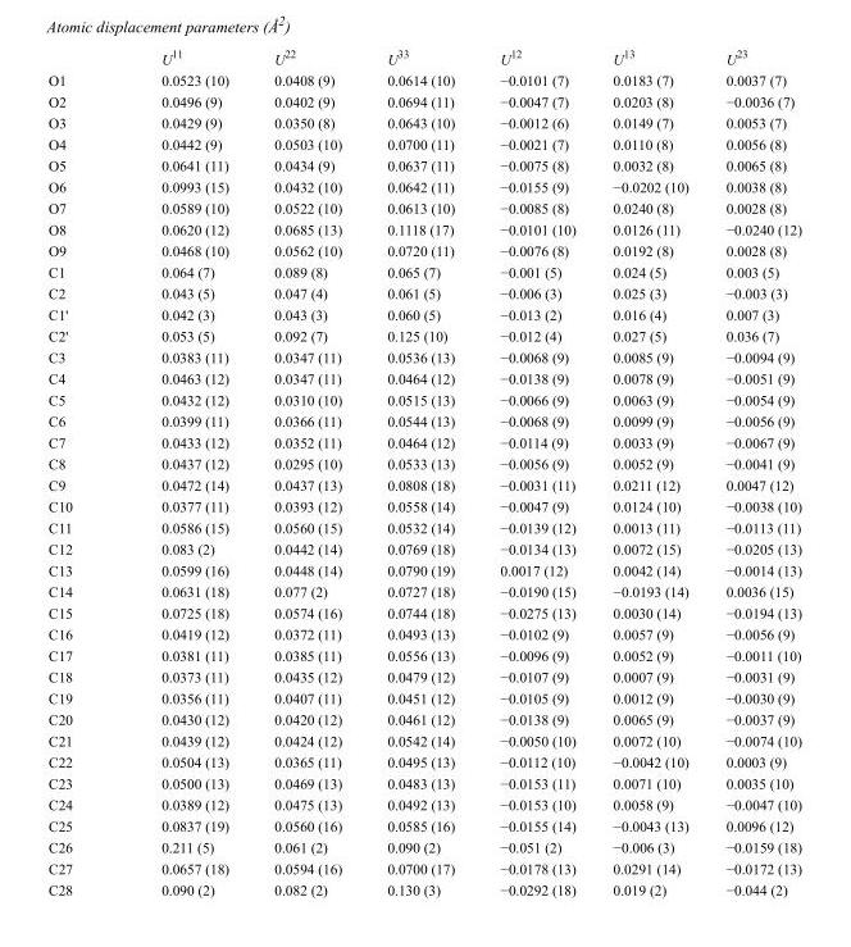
<table><thead><tr><td></td><td>U<sup>11</sup></td><td>U<sup>22</sup></td><td>U<sup>33</sup></td><td>U<sup>12</sup></td><td>U<sup>13</sup></td><td>U<sup>23</sup></td></tr></thead><tbody><tr><td>O1</td><td>0.0523 (10)</td><td>0.0408 (9)</td><td>0.0614 (10)</td><td>−0.0101 (7)</td><td>0.0183 (7)</td><td>0.0037 (7)</td></tr><tr><td>O2</td><td>0.0496 (9)</td><td>0.0402 (9)</td><td>0.0694 (11)</td><td>−0.0047 (7)</td><td>0.0203 (8)</td><td>−0.0036 (7)</td></tr><tr><td>O3</td><td>0.0429 (9)</td><td>0.0350 (8)</td><td>0.0643 (10)</td><td>−0.0012 (6)</td><td>0.0149 (7)</td><td>0.0053 (7)</td></tr><tr><td>O4</td><td>0.0442 (9)</td><td>0.0503 (10)</td><td>0.0700 (11)</td><td>−0.0021 (7)</td><td>0.0110 (8)</td><td>0.0056 (8)</td></tr><tr><td>O5</td><td>0.0641 (11)</td><td>0.0434 (9)</td><td>0.0637 (11)</td><td>−0.0075 (8)</td><td>0.0032 (8)</td><td>0.0065 (8)</td></tr><tr><td>O6</td><td>0.0993 (15)</td><td>0.0432 (10)</td><td>0.0642 (11)</td><td>−0.0155 (9)</td><td>−0.0202 (10)</td><td>0.0038 (8)</td></tr><tr><td>O7</td><td>0.0589 (10)</td><td>0.0522 (10)</td><td>0.0613 (10)</td><td>−0.0085 (8)</td><td>0.0240 (8)</td><td>0.0028 (8)</td></tr><tr><td>O8</td><td>0.0620 (12)</td><td>0.0685 (13)</td><td>0.1118 (17)</td><td>−0.0101 (10)</td><td>0.0126 (11)</td><td>−0.0240 (12)</td></tr><tr><td>O9</td><td>0.0468 (10)</td><td>0.0562 (10)</td><td>0.0720 (11)</td><td>−0.0076 (8)</td><td>0.0192 (8)</td><td>0.0028 (8)</td></tr><tr><td>C1</td><td>0.064 (7)</td><td>0.089 (8)</td><td>0.065 (7)</td><td>−0.001 (5)</td><td>0.024 (5)</td><td>0.003 (5)</td></tr><tr><td>C2</td><td>0.043 (5)</td><td>0.047 (4)</td><td>0.061 (5)</td><td>−0.006 (3)</td><td>0.025 (3)</td><td>−0.003 (3)</td></tr><tr><td>C1&#x27;</td><td>0.042 (3)</td><td>0.043 (3)</td><td>0.060 (5)</td><td>−0.013 (2)</td><td>0.016 (4)</td><td>0.007 (3)</td></tr><tr><td>C2&#x27;</td><td>0.053 (5)</td><td>0.092 (7)</td><td>0.125 (10)</td><td>−0.012 (4)</td><td>0.027 (5)</td><td>0.036 (7)</td></tr><tr><td>C3</td><td>0.0383 (11)</td><td>0.0347 (11)</td><td>0.0536 (13)</td><td>−0.0068 (9)</td><td>0.0085 (9)</td><td>−0.0094 (9)</td></tr><tr><td>C4</td><td>0.0463 (12)</td><td>0.0347 (11)</td><td>0.0464 (12)</td><td>−0.0138 (9)</td><td>0.0078 (9)</td><td>−0.0051 (9)</td></tr><tr><td>C5</td><td>0.0432 (12)</td><td>0.0310 (10)</td><td>0.0515 (13)</td><td>−0.0066 (9)</td><td>0.0063 (9)</td><td>−0.0054 (9)</td></tr><tr><td>C6</td><td>0.0399 (11)</td><td>0.0366 (11)</td><td>0.0544 (13)</td><td>−0.0068 (9)</td><td>0.0099 (9)</td><td>−0.0056 (9)</td></tr><tr><td>C7</td><td>0.0433 (12)</td><td>0.0352 (11)</td><td>0.0464 (12)</td><td>−0.0114 (9)</td><td>0.0033 (9)</td><td>−0.0067 (9)</td></tr><tr><td>C8</td><td>0.0437 (12)</td><td>0.0295 (10)</td><td>0.0533 (13)</td><td>−0.0056 (9)</td><td>0.0052 (9)</td><td>−0.0041 (9)</td></tr><tr><td>C9</td><td>0.0472 (14)</td><td>0.0437 (13)</td><td>0.0808 (18)</td><td>−0.0031 (11)</td><td>0.0211 (12)</td><td>0.0047 (12)</td></tr><tr><td>C10</td><td>0.0377 (11)</td><td>0.0393 (12)</td><td>0.0558 (14)</td><td>−0.0047 (9)</td><td>0.0124 (10)</td><td>−0.0038 (10)</td></tr><tr><td>C11</td><td>0.0586 (15)</td><td>0.0560 (15)</td><td>0.0532 (14)</td><td>−0.0139 (12)</td><td>0.0013 (11)</td><td>−0.0113 (11)</td></tr><tr><td>C12</td><td>0.083 (2)</td><td>0.0442 (14)</td><td>0.0769 (18)</td><td>−0.0134 (13)</td><td>0.0072 (15)</td><td>−0.0205 (13)</td></tr><tr><td>C13</td><td>0.0599 (16)</td><td>0.0448 (14)</td><td>0.0790 (19)</td><td>0.0017 (12)</td><td>0.0042 (14)</td><td>−0.0014 (13)</td></tr><tr><td>C14</td><td>0.0631 (18)</td><td>0.077 (2)</td><td>0.0727 (18)</td><td>−0.0190 (15)</td><td>−0.0193 (14)</td><td>0.0036 (15)</td></tr><tr><td>C15</td><td>0.0725 (18)</td><td>0.0574 (16)</td><td>0.0744 (18)</td><td>−0.0275 (13)</td><td>0.0030 (14)</td><td>−0.0194 (13)</td></tr><tr><td>C16</td><td>0.0419 (12)</td><td>0.0372 (11)</td><td>0.0493 (13)</td><td>−0.0102 (9)</td><td>0.0057 (9)</td><td>−0.0056 (9)</td></tr><tr><td>C17</td><td>0.0381 (11)</td><td>0.0385 (11)</td><td>0.0556 (13)</td><td>−0.0096 (9)</td><td>0.0052 (9)</td><td>−0.0011 (10)</td></tr><tr><td>C18</td><td>0.0373 (11)</td><td>0.0435 (12)</td><td>0.0479 (12)</td><td>−0.0107 (9)</td><td>0.0007 (9)</td><td>−0.0031 (9)</td></tr><tr><td>C19</td><td>0.0356 (11)</td><td>0.0407 (11)</td><td>0.0451 (12)</td><td>−0.0105 (9)</td><td>0.0012 (9)</td><td>−0.0030 (9)</td></tr><tr><td>C20</td><td>0.0430 (12)</td><td>0.0420 (12)</td><td>0.0461 (12)</td><td>−0.0138 (9)</td><td>0.0065 (9)</td><td>−0.0037 (9)</td></tr><tr><td>C21</td><td>0.0439 (12)</td><td>0.0424 (12)</td><td>0.0542 (14)</td><td>−0.0050 (10)</td><td>0.0072 (10)</td><td>−0.0074 (10)</td></tr><tr><td>C22</td><td>0.0504 (13)</td><td>0.0365 (11)</td><td>0.0495 (13)</td><td>−0.0112 (10)</td><td>−0.0042 (10)</td><td>0.0003 (9)</td></tr><tr><td>C23</td><td>0.0500 (13)</td><td>0.0469 (13)</td><td>0.0483 (13)</td><td>−0.0153 (11)</td><td>0.0071 (10)</td><td>0.0035 (10)</td></tr><tr><td>C24</td><td>0.0389 (12)</td><td>0.0475 (13)</td><td>0.0492 (13)</td><td>−0.0153 (10)</td><td>0.0058 (9)</td><td>−0.0047 (10)</td></tr><tr><td>C25</td><td>0.0837 (19)</td><td>0.0560 (16)</td><td>0.0585 (16)</td><td>−0.0155 (14)</td><td>−0.0043 (13)</td><td>0.0096 (12)</td></tr><tr><td>C26</td><td>0.211 (5)</td><td>0.061 (2)</td><td>0.090 (2)</td><td>−0.051 (2)</td><td>−0.006 (3)</td><td>−0.0159 (18)</td></tr><tr><td>C27</td><td>0.0657 (18)</td><td>0.0594 (16)</td><td>0.0700 (17)</td><td>−0.0178 (13)</td><td>0.0291 (14)</td><td>−0.0172 (13)</td></tr><tr><td>C28</td><td>0.090 (2)</td><td>0.082 (2)</td><td>0.130 (3)</td><td>−0.0292 (18)</td><td>0.019 (2)</td><td>−0.044 (2)</td></tr></tbody></table>